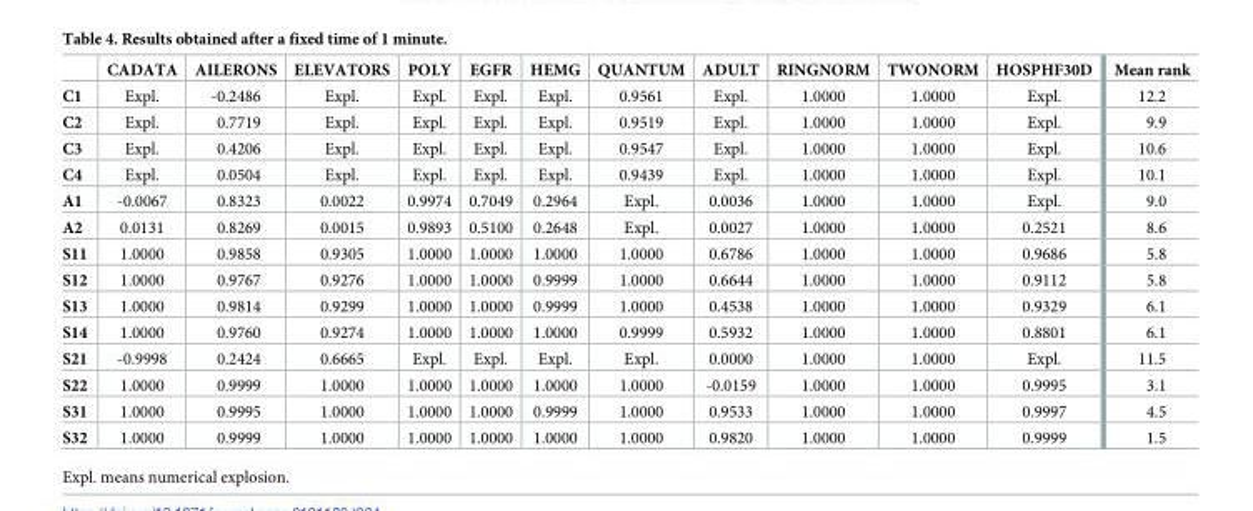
<table><thead><tr><td></td><td>CADATA</td><td>AILERONS</td><td>ELEVATORS</td><td>POLY</td><td>EGFR</td><td>HEMG</td><td>QUANTUM</td><td>ADULT</td><td>RINGNORM</td><td>TWONORM</td><td>HOSPHF30D</td><td>Mean rank</td></tr></thead><tbody><tr><td>C1</td><td>Expl.</td><td>-0.2486</td><td>Expl.</td><td>Expl.</td><td>Expl.</td><td>Expl.</td><td>0.9561</td><td>Expl.</td><td>1.0000</td><td>1.0000</td><td>Expl.</td><td>12.2</td></tr><tr><td>C2</td><td>Expl.</td><td>0.7719</td><td>Expl.</td><td>Expl.</td><td>Expl.</td><td>Expl.</td><td>0.9519</td><td>Expl.</td><td>1.0000</td><td>1.0000</td><td>Expl.</td><td>9.9</td></tr><tr><td>C3</td><td>Expl.</td><td>0.4206</td><td>Expl.</td><td>Expl.</td><td>Expl.</td><td>Expl.</td><td>0.9547</td><td>Expl.</td><td>1.0000</td><td>1.0000</td><td>Expl.</td><td>10.6</td></tr><tr><td>C4</td><td>Expl.</td><td>0.0504</td><td>Expl.</td><td>Expl.</td><td>Expl.</td><td>Expl.</td><td>0.9439</td><td>Expl.</td><td>1.0000</td><td>1.0000</td><td>Expl.</td><td>10.1</td></tr><tr><td>A1</td><td>-0.0067</td><td>0.8323</td><td>0.0022</td><td>0.9974</td><td>0.7049</td><td>0.2964</td><td>Expl.</td><td>0.0036</td><td>1.0000</td><td>1.0000</td><td>Expl.</td><td>9.0</td></tr><tr><td>A2</td><td>0.0131</td><td>0.8269</td><td>0.0015</td><td>0.9893</td><td>0.5100</td><td>0.2648</td><td>Expl.</td><td>0.0027</td><td>1.0000</td><td>1.0000</td><td>0.2521</td><td>8.6</td></tr><tr><td>S11</td><td>1.0000</td><td>0.9858</td><td>0.9305</td><td>1.0000</td><td>1.0000</td><td>1.0000</td><td>1.0000</td><td>0.6786</td><td>1.0000</td><td>1.0000</td><td>0.9686</td><td>5.8</td></tr><tr><td>S12</td><td>1.0000</td><td>0.9767</td><td>0.9276</td><td>1.0000</td><td>1.0000</td><td>0.9999</td><td>1.0000</td><td>0.6644</td><td>1.0000</td><td>1.0000</td><td>0.9112</td><td>5.8</td></tr><tr><td>S13</td><td>1.0000</td><td>0.9814</td><td>0.9299</td><td>1.0000</td><td>1.0000</td><td>0.9999</td><td>1.0000</td><td>0.4538</td><td>1.0000</td><td>1.0000</td><td>0.9329</td><td>6.1</td></tr><tr><td>S14</td><td>1.0000</td><td>0.9760</td><td>0.9274</td><td>1.0000</td><td>1.0000</td><td>1.0000</td><td>0.9999</td><td>0.5932</td><td>1.0000</td><td>1.0000</td><td>0.8801</td><td>6.1</td></tr><tr><td>S21</td><td>-0.9998</td><td>0.2424</td><td>0.6665</td><td>Expl.</td><td>Expl.</td><td>Expl.</td><td>Expl.</td><td>0.0000</td><td>1.0000</td><td>1.0000</td><td>Expl.</td><td>11.5</td></tr><tr><td>S22</td><td>1.0000</td><td>0.9999</td><td>1.0000</td><td>1.0000</td><td>1.0000</td><td>1.0000</td><td>1.0000</td><td>-0.0159</td><td>1.0000</td><td>1.0000</td><td>0.9995</td><td>3.1</td></tr><tr><td>S31</td><td>1.0000</td><td>0.9995</td><td>1.0000</td><td>1.0000</td><td>1.0000</td><td>0.9999</td><td>1.0000</td><td>0.9533</td><td>1.0000</td><td>1.0000</td><td>0.9997</td><td>4.5</td></tr><tr><td>S32</td><td>1.0000</td><td>0.9999</td><td>1.0000</td><td>1.0000</td><td>1.0000</td><td>1.0000</td><td>1.0000</td><td>0.9820</td><td>1.0000</td><td>1.0000</td><td>0.9999</td><td>1.5</td></tr></tbody></table>